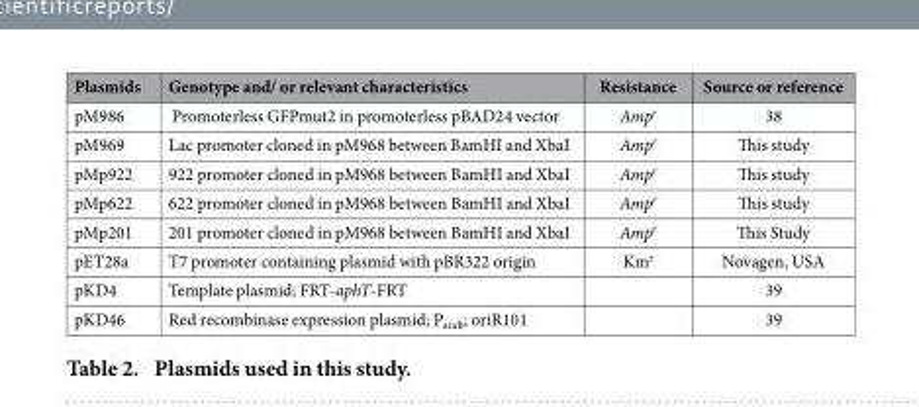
<table><thead><tr><td>Plasmids</td><td>Genotype and/ or relevant characteristics</td><td>Resistance</td><td>Source or reference</td></tr></thead><tbody><tr><td>pM986</td><td>Promoterless GFPmut2 in promoterless pBAD24 vector</td><td>Amp<sup>r</sup></td><td>38</td></tr><tr><td>pM969</td><td>Lac promoter cloned in pM968 between BamHI and XbaI</td><td>Amp<sup>r</sup></td><td>This study</td></tr><tr><td>pMp922</td><td>922 promoter cloned in pM968 between BamHI and XbaI</td><td>Amp<sup>r</sup></td><td>This study</td></tr><tr><td>pMp622</td><td>622 promoter cloned in pM968 between BamHI and XbaI</td><td>Amp<sup>r</sup></td><td>This study</td></tr><tr><td>pMp201</td><td>201 promoter cloned in pM968 between BamHI and XbaI</td><td>Amp<sup>r</sup></td><td>This Study</td></tr><tr><td>pET28a</td><td>T7 promoter containing plasmid with pBR322 origin</td><td>Km<sup>r</sup></td><td>Novagen, USA</td></tr><tr><td>pKD4</td><td>Template plasmid; FRT-aphT-FRT</td><td></td><td>39</td></tr><tr><td>pKD46</td><td>Red recombinase expression plasmid; P<sub>araB</sub>; oriR101</td><td></td><td>39</td></tr></tbody></table>